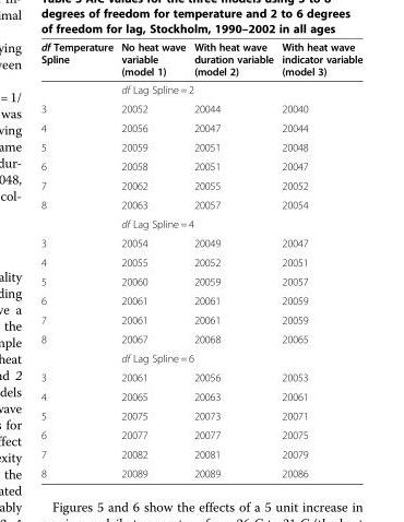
<table><thead><tr><td>df Temperature Spline</td><td>No heat wave variable (model 1)</td><td>With heat wave duration variable (model 2)</td><td>With heat wave indicator variable (model 3)</td></tr></thead><tbody><tr><td></td><td colspan="3">df Lag Spline = 2</td></tr><tr><td>3</td><td>20052</td><td>20044</td><td>20040</td></tr><tr><td>4</td><td>20056</td><td>20047</td><td>20044</td></tr><tr><td>5</td><td>20059</td><td>20051</td><td>20048</td></tr><tr><td>6</td><td>20058</td><td>20051</td><td>20047</td></tr><tr><td>7</td><td>20062</td><td>20055</td><td>20052</td></tr><tr><td rowspan="2">8</td><td>20063</td><td>20057</td><td>20054</td></tr><tr><td colspan="3">df Lag Spline = 4</td></tr><tr><td>3</td><td>20054</td><td>20049</td><td>20047</td></tr><tr><td>4</td><td>20055</td><td>20052</td><td>20051</td></tr><tr><td>5</td><td>20060</td><td>20059</td><td>20057</td></tr><tr><td>6</td><td>20061</td><td>20061</td><td>20059</td></tr><tr><td>7</td><td>20061</td><td>20061</td><td>20059</td></tr><tr><td rowspan="2">8</td><td>20067</td><td>20068</td><td>20065</td></tr><tr><td colspan="3">df Lag Spline = 6</td></tr><tr><td>3</td><td>20061</td><td>20056</td><td>20053</td></tr><tr><td>4</td><td>20065</td><td>20063</td><td>20061</td></tr><tr><td>5</td><td>20075</td><td>20073</td><td>20071</td></tr><tr><td>6</td><td>20077</td><td>20077</td><td>20075</td></tr><tr><td>7</td><td>20082</td><td>20081</td><td>20079</td></tr><tr><td>8</td><td>20089</td><td>20089</td><td>20086</td></tr></tbody></table>